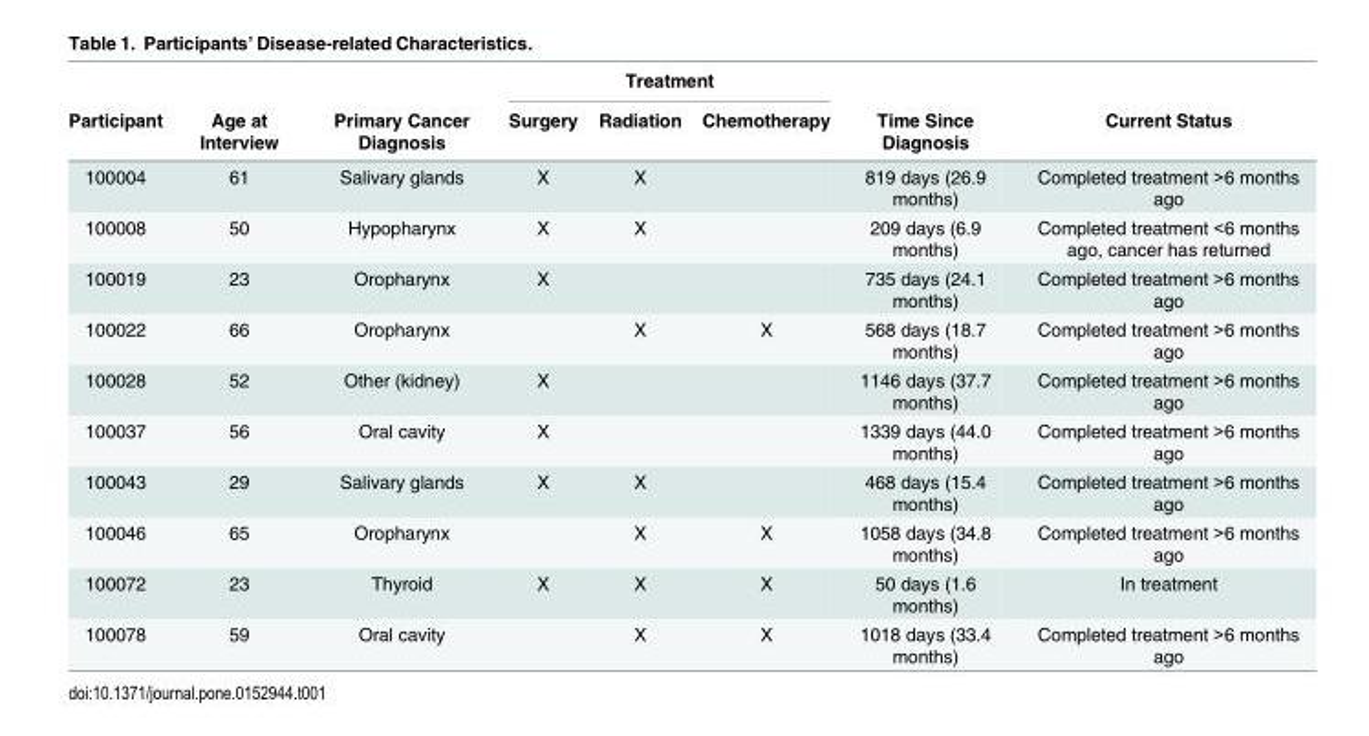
<table><thead><tr><td rowspan="2">Participant</td><td rowspan="2">Age at Interview</td><td rowspan="2">Primary Cancer Diagnosis</td><td colspan="3">Treatment</td><td rowspan="2">Time Since Diagnosis</td><td rowspan="2">Current Status</td></tr><tr><td>Surgery</td><td>Radiation</td><td>Chemotherapy</td></tr></thead><tbody><tr><td>100004</td><td>61</td><td>Salivary glands</td><td>X</td><td>X</td><td></td><td>819 days (26.9 months)</td><td>Completed treatment &gt;6 months ago</td></tr><tr><td>100008</td><td>50</td><td>Hypopharynx</td><td>X</td><td>X</td><td></td><td>209 days (6.9 months)</td><td>Completed treatment &lt;6 months ago, cancer has returned</td></tr><tr><td>100019</td><td>23</td><td>Oropharynx</td><td>X</td><td></td><td></td><td>735 days (24.1 months)</td><td>Completed treatment &gt;6 months ago</td></tr><tr><td>100022</td><td>66</td><td>Oropharynx</td><td></td><td>X</td><td>X</td><td>568 days (18.7 months)</td><td>Completed treatment &gt;6 months ago</td></tr><tr><td>100028</td><td>52</td><td>Other (kidney)</td><td>X</td><td></td><td></td><td>1146 days (37.7 months)</td><td>Completed treatment &gt;6 months ago</td></tr><tr><td>100037</td><td>56</td><td>Oral cavity</td><td>X</td><td></td><td></td><td>1339 days (44.0 months)</td><td>Completed treatment &gt;6 months ago</td></tr><tr><td>100043</td><td>29</td><td>Salivary glands</td><td>X</td><td>X</td><td></td><td>468 days (15.4 months)</td><td>Completed treatment &gt;6 months ago</td></tr><tr><td>100046</td><td>65</td><td>Oropharynx</td><td></td><td>X</td><td>X</td><td>1058 days (34.8 months)</td><td>Completed treatment &gt;6 months ago</td></tr><tr><td>100072</td><td>23</td><td>Thyroid</td><td>X</td><td>X</td><td>X</td><td>50 days (1.6 months)</td><td>In treatment</td></tr><tr><td>100078</td><td>59</td><td>Oral cavity</td><td></td><td>X</td><td>X</td><td>1018 days (33.4 months)</td><td>Completed treatment &gt;6 months ago</td></tr></tbody></table>